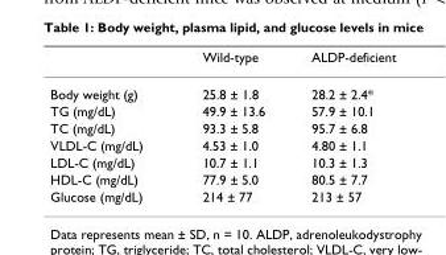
<table><thead><tr><td></td><td>Wild-type</td><td>ALDP-deficient</td></tr></thead><tbody><tr><td>Body weight (g)</td><td>25.8 ± 1.8</td><td>28.2 ± 2.4*</td></tr><tr><td>TG (mg/dL)</td><td>49.9 ± 13.6</td><td>57.9 ± 10.1</td></tr><tr><td>TC (mg/dL)</td><td>93.3 ± 5.8</td><td>95.7 ± 6.8</td></tr><tr><td>VLDL-C (mg/dL)</td><td>4.53 ± 1.0</td><td>4.80 ± 1.1</td></tr><tr><td>LDL-C (mg/dL)</td><td>10.7 ± 1.1</td><td>10.3 ± 1.3</td></tr><tr><td>HDL-C (mg/dL)</td><td>77.9 ± 5.0</td><td>80.5 ± 7.7</td></tr><tr><td>Glucose (mg/dL)</td><td>214 ± 77</td><td>213 ± 57</td></tr></tbody></table>